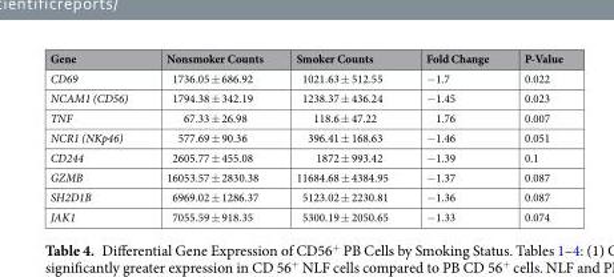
<table><thead><tr><td>Gene</td><td>Nonsmoker Counts</td><td>Smoker Counts</td><td>Fold Change</td><td>P-Value</td></tr></thead><tbody><tr><td>CD69</td><td>1736.05 ± 686.92</td><td>1021.63 ± 512.55</td><td>−1.7</td><td>0.022</td></tr><tr><td>NCAM1 (CD56)</td><td>1794.38 ± 342.19</td><td>1238.37 ± 436.24</td><td>−1.45</td><td>0.023</td></tr><tr><td>TNF</td><td>67.33 ± 26.98</td><td>118.6 ± 47.22</td><td>1.76</td><td>0.007</td></tr><tr><td>NCR1 (NKp46)</td><td>577.69 ± 90.36</td><td>396.41 ± 168.63</td><td>−1.46</td><td>0.051</td></tr><tr><td>CD244</td><td>2605.77 ± 455.08</td><td>1872 ± 993.42</td><td>−1.39</td><td>0.1</td></tr><tr><td>GZMB</td><td>16053.57 ± 2830.38</td><td>11684.68 ± 4384.95</td><td>−1.37</td><td>0.087</td></tr><tr><td>SH2D1B</td><td>6969.02 ± 1286.37</td><td>5123.02 ± 2230.81</td><td>−1.36</td><td>0.087</td></tr><tr><td>JAK1</td><td>7055.59 ± 918.35</td><td>5300.19 ± 2050.65</td><td>−1.33</td><td>0.074</td></tr></tbody></table>